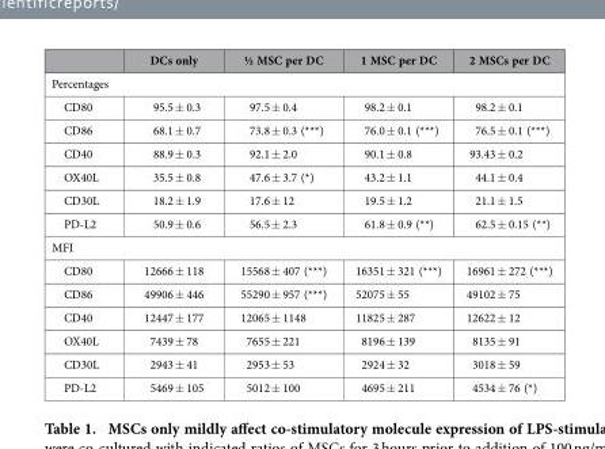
<table><thead><tr><td></td><td>DCs only</td><td>½ MSC per DC</td><td>1 MSC per DC</td><td>2 MSCs per DC</td></tr></thead><tbody><tr><td colspan="5">Percentages</td></tr><tr><td>CD80</td><td>95.5 ± 0.3</td><td>97.5 ± 0.4</td><td>98.2 ± 0.1</td><td>98.2 ± 0.1</td></tr><tr><td>CD86</td><td>68.1 ± 0.7</td><td>73.8 ± 0.3 (***)</td><td>76.0 ± 0.1 (***)</td><td>76.5 ± 0.1 (***)</td></tr><tr><td>CD40</td><td>88.9 ± 0.3</td><td>92.1 ± 2.0</td><td>90.1 ± 0.8</td><td>93.43 ± 0.2</td></tr><tr><td>OX40L</td><td>35.5 ± 0.8</td><td>47.6 ± 3.7 (*)</td><td>43.2 ± 1.1</td><td>44.1 ± 0.4</td></tr><tr><td>CD30L</td><td>18.2 ± 1.9</td><td>17.6 ± 12</td><td>19.5 ± 1.2</td><td>21.1 ± 1.5</td></tr><tr><td>PD-L2</td><td>50.9 ± 0.6</td><td>56.5 ± 2.3</td><td>61.8 ± 0.9 (**)</td><td>62.5 ± 0.15 (**)</td></tr><tr><td colspan="5">MFI</td></tr><tr><td>CD80</td><td>12666 ± 118</td><td>15568 ± 407 (***)</td><td>16351 ± 321 (***)</td><td>16961 ± 272 (***)</td></tr><tr><td>CD86</td><td>49906 ± 446</td><td>55290 ± 957 (***)</td><td>52075 ± 55</td><td>49102 ± 75</td></tr><tr><td>CD40</td><td>12447 ± 177</td><td>12065 ± 1148</td><td>11825 ± 287</td><td>12622 ± 12</td></tr><tr><td>OX40L</td><td>7439 ± 78</td><td>7655 ± 221</td><td>8196 ± 139</td><td>8135 ± 91</td></tr><tr><td>CD30L</td><td>2943 ± 41</td><td>2953 ± 53</td><td>2924 ± 32</td><td>3018 ± 59</td></tr><tr><td>PD-L2</td><td>5469 ± 105</td><td>5012 ± 100</td><td>4695 ± 211</td><td>4534 ± 76 (*)</td></tr></tbody></table>